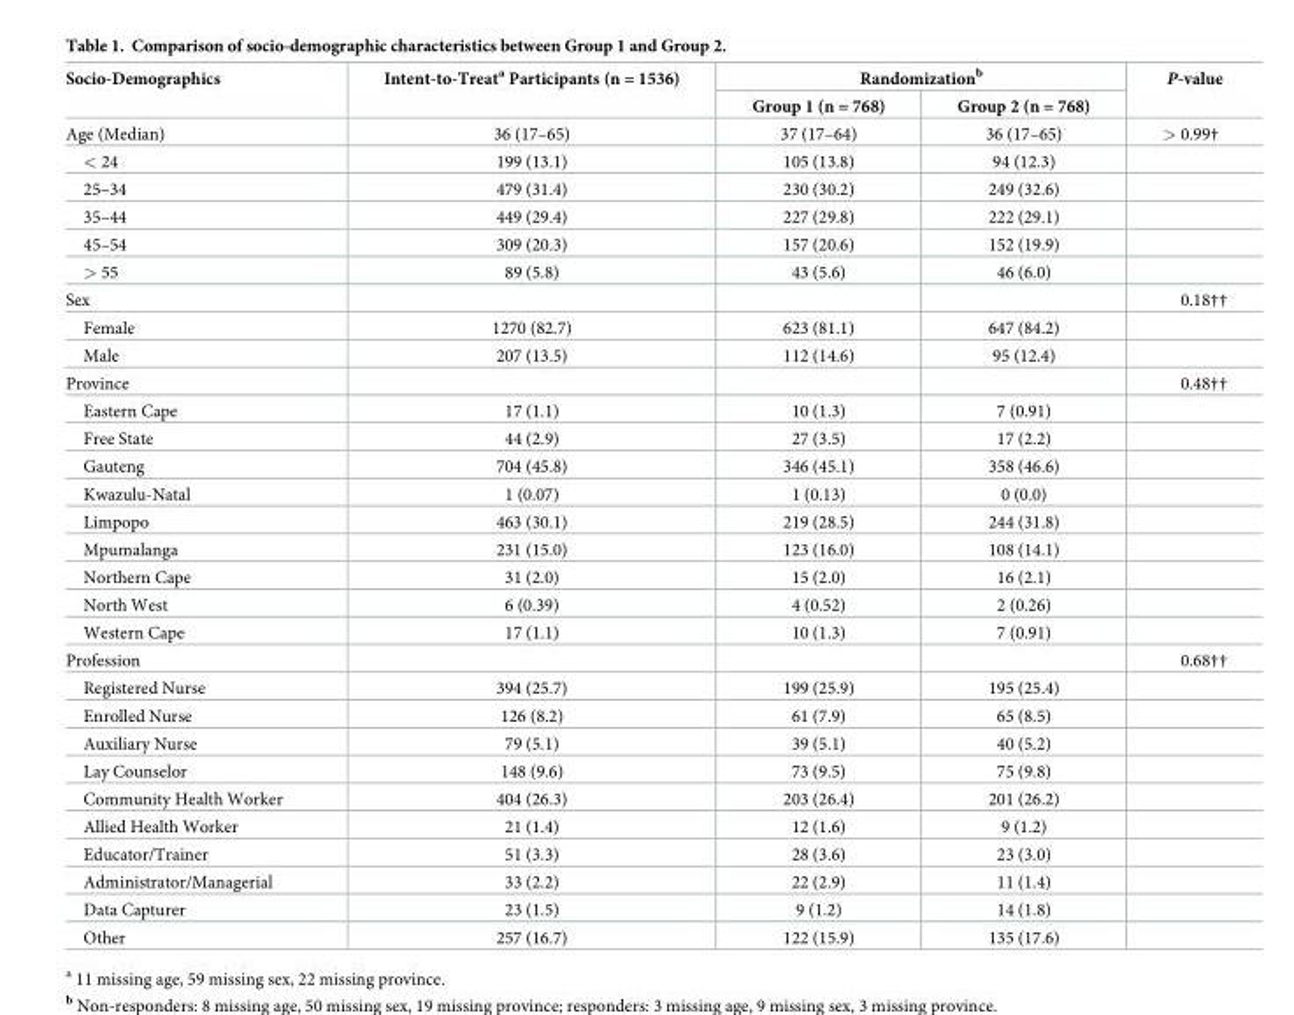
<table><thead><tr><td rowspan="2">Socio-Demographics</td><td rowspan="2">Intent-to-Treat<sup>a</sup> Participants (n = 1536)</td><td colspan="2">Randomization<sup>b</sup></td><td rowspan="2">P-value</td></tr><tr><td>Group 1 (n = 768)</td><td>Group 2 (n = 768)</td></tr></thead><tbody><tr><td>Age (Median)</td><td>36 (17–65)</td><td>37 (17–64)</td><td>36 (17–65)</td><td>&gt; 0.99†</td></tr><tr><td>&lt; 24</td><td>199 (13.1)</td><td>105 (13.8)</td><td>94 (12.3)</td><td></td></tr><tr><td>25–34</td><td>479 (31.4)</td><td>230 (30.2)</td><td>249 (32.6)</td><td></td></tr><tr><td>35–44</td><td>449 (29.4)</td><td>227 (29.8)</td><td>222 (29.1)</td><td></td></tr><tr><td>45–54</td><td>309 (20.3)</td><td>157 (20.6)</td><td>152 (19.9)</td><td></td></tr><tr><td>&gt; 55</td><td>89 (5.8)</td><td>43 (5.6)</td><td>46 (6.0)</td><td></td></tr><tr><td>Sex</td><td></td><td></td><td></td><td>0.18††</td></tr><tr><td>Female</td><td>1270 (82.7)</td><td>623 (81.1)</td><td>647 (84.2)</td><td></td></tr><tr><td>Male</td><td>207 (13.5)</td><td>112 (14.6)</td><td>95 (12.4)</td><td></td></tr><tr><td>Province</td><td></td><td></td><td></td><td>0.48††</td></tr><tr><td>Eastern Cape</td><td>17 (1.1)</td><td>10 (1.3)</td><td>7 (0.91)</td><td></td></tr><tr><td>Free State</td><td>44 (2.9)</td><td>27 (3.5)</td><td>17 (2.2)</td><td></td></tr><tr><td>Gauteng</td><td>704 (45.8)</td><td>346 (45.1)</td><td>358 (46.6)</td><td></td></tr><tr><td>Kwazulu-Natal</td><td>1 (0.07)</td><td>1 (0.13)</td><td>0 (0.0)</td><td></td></tr><tr><td>Limpopo</td><td>463 (30.1)</td><td>219 (28.5)</td><td>244 (31.8)</td><td></td></tr><tr><td>Mpumalanga</td><td>231 (15.0)</td><td>123 (16.0)</td><td>108 (14.1)</td><td></td></tr><tr><td>Northern Cape</td><td>31 (2.0)</td><td>15 (2.0)</td><td>16 (2.1)</td><td></td></tr><tr><td>North West</td><td>6 (0.39)</td><td>4 (0.52)</td><td>2 (0.26)</td><td></td></tr><tr><td>Western Cape</td><td>17 (1.1)</td><td>10 (1.3)</td><td>7 (0.91)</td><td></td></tr><tr><td>Profession</td><td></td><td></td><td></td><td>0.68††</td></tr><tr><td>Registered Nurse</td><td>394 (25.7)</td><td>199 (25.9)</td><td>195 (25.4)</td><td></td></tr><tr><td>Enrolled Nurse</td><td>126 (8.2)</td><td>61 (7.9)</td><td>65 (8.5)</td><td></td></tr><tr><td>Auxiliary Nurse</td><td>79 (5.1)</td><td>39 (5.1)</td><td>40 (5.2)</td><td></td></tr><tr><td>Lay Counselor</td><td>148 (9.6)</td><td>73 (9.5)</td><td>75 (9.8)</td><td></td></tr><tr><td>Community Health Worker</td><td>404 (26.3)</td><td>203 (26.4)</td><td>201 (26.2)</td><td></td></tr><tr><td>Allied Health Worker</td><td>21 (1.4)</td><td>12 (1.6)</td><td>9 (1.2)</td><td></td></tr><tr><td>Educator/Trainer</td><td>51 (3.3)</td><td>28 (3.6)</td><td>23 (3.0)</td><td></td></tr><tr><td>Administrator/Managerial</td><td>33 (2.2)</td><td>22 (2.9)</td><td>11 (1.4)</td><td></td></tr><tr><td>Data Capturer</td><td>23 (1.5)</td><td>9 (1.2)</td><td>14 (1.8)</td><td></td></tr><tr><td>Other</td><td>257 (16.7)</td><td>122 (15.9)</td><td>135 (17.6)</td><td></td></tr></tbody></table>